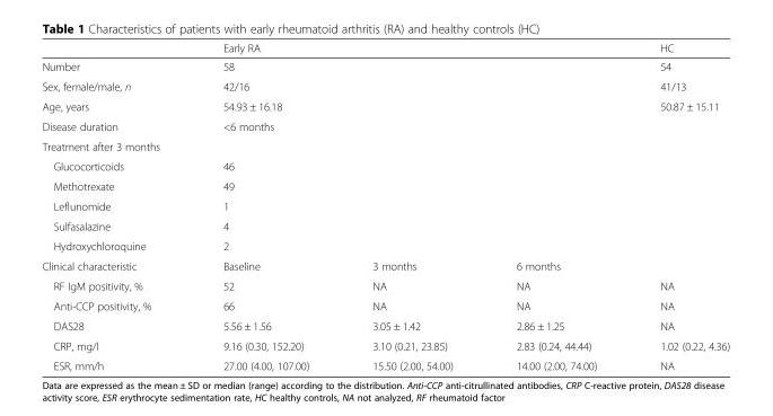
<table><thead><tr><td rowspan="2">Number</td><td colspan="3">Early RA</td><td rowspan="2">HC 54</td></tr><tr><td>58</td><td></td><td></td></tr></thead><tbody><tr><td>Sex, female/male, n</td><td>42/16</td><td></td><td></td><td>41/13</td></tr><tr><td>Age, years</td><td>54.93 ± 16.18</td><td></td><td></td><td>50.87 ± 15.11</td></tr><tr><td>Disease duration</td><td>&lt;6 months</td><td></td><td></td><td></td></tr><tr><td colspan="5">Treatment after 3 months</td></tr><tr><td>Glucocorticoids</td><td>46</td><td></td><td></td><td></td></tr><tr><td>Methotrexate</td><td>49</td><td></td><td></td><td></td></tr><tr><td>Leflunomide</td><td>1</td><td></td><td></td><td></td></tr><tr><td>Sulfasalazine</td><td>4</td><td></td><td></td><td></td></tr><tr><td>Hydroxychloroquine</td><td>2</td><td></td><td></td><td></td></tr><tr><td>Clinical characteristic</td><td>Baseline</td><td>3 months</td><td>6 months</td><td></td></tr><tr><td>RF IgM positivity, %</td><td>52</td><td>NA</td><td>NA</td><td>NA</td></tr><tr><td>Anti-CCP positivity, %</td><td>66</td><td>NA</td><td>NA</td><td>NA</td></tr><tr><td>DAS28</td><td>5.56 ± 1.56</td><td>3.05 ± 1.42</td><td>2.86 ± 1.25</td><td>NA</td></tr><tr><td>CRP, mg/l</td><td>9.16 (0.30, 152.20)</td><td>3.10 (0.21, 23.85)</td><td>2.83 (0.24, 44.44)</td><td>1.02 (0.22, 4.36)</td></tr><tr><td>ESR, mm/h</td><td>27.00 (4.00, 107.00)</td><td>15.50 (2.00, 54.00)</td><td>14.00 (2.00, 74.00)</td><td>NA</td></tr></tbody></table>